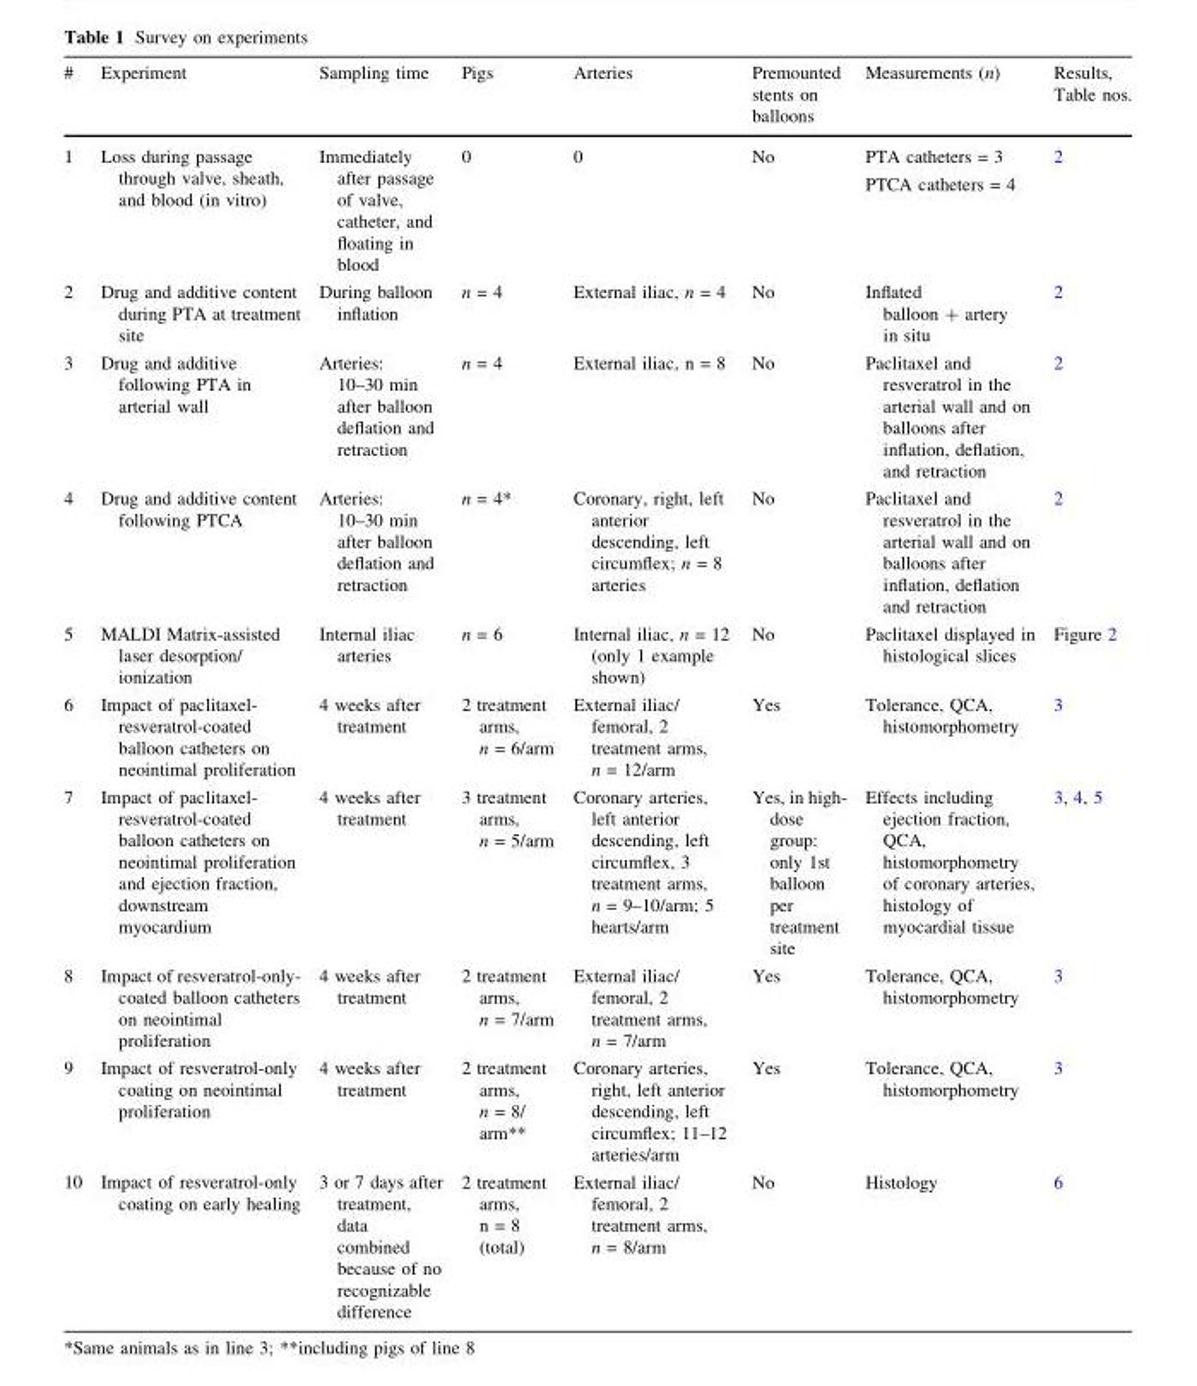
<table><thead><tr><td>#</td><td>Experiment</td><td>Sampling time</td><td>Pigs</td><td>Arteries</td><td>Premounted stents on balloons</td><td>Measurements (n)</td><td>Results, Table nos.</td></tr></thead><tbody><tr><td>1</td><td>Loss during passage through valve, sheath, and blood (in vitro)</td><td>Immediately after passage of valve, catheter, and floating in blood</td><td>0</td><td>0</td><td>No</td><td>PTA catheters = 3 PTCA catheters = 4</td><td>2</td></tr><tr><td>2</td><td>Drug and additive content during PTA at treatment site</td><td>During balloon inflation</td><td>n = 4</td><td>External iliac, n = 4</td><td>No</td><td>Inflated balloon + artery in situ</td><td>2</td></tr><tr><td>3</td><td>Drug and additive following PTA in arterial wall</td><td>Arteries: 10–30 min after balloon deflation and retraction</td><td>n = 4</td><td>External iliac, n = 8</td><td>No</td><td>Paclitaxel and resveratrol in the arterial wall and on balloons after inflation, deflation, and retraction</td><td>2</td></tr><tr><td>4</td><td>Drug and additive content following PTCA</td><td>Arteries: 10–30 min after balloon deflation and retraction</td><td>n = 4*</td><td>Coronary, right, left anterior descending, left circumflex; n = 8 arteries</td><td>No</td><td>Paclitaxel and resveratrol in the arterial wall and on balloons after inflation, deflation and retraction</td><td>2</td></tr><tr><td>5</td><td>MALDI Matrix-assisted laser desorption/ ionization</td><td>Internal iliac arteries</td><td>n = 6</td><td>Internal iliac, n = 12 (only 1 example shown)</td><td>No</td><td>Paclitaxel displayed in histological slices</td><td>Figure 2</td></tr><tr><td>6</td><td>Impact of paclitaxel- resveratrol-coated balloon catheters on neointimal proliferation</td><td>4 weeks after treatment</td><td>2 treatment arms, n = 6/arm</td><td>External iliac/ femoral, 2 treatment arms, n = 12/arm</td><td>Yes</td><td>Tolerance, QCA, histomorphometry</td><td>3</td></tr><tr><td>7</td><td>Impact of paclitaxel- resveratrol-coated balloon catheters on neointimal proliferation and ejection fraction, downstream myocardium</td><td>4 weeks after treatment</td><td>3 treatment arms, n = 5/arm</td><td>Coronary arteries, left anterior descending, left circumflex, 3 treatment arms, n = 9–10/arm; 5 hearts/arm</td><td>Yes, in high- dose group: only 1st balloon per treatment site</td><td>Effects including ejection fraction, QCA, histomorphometry of coronary arteries, histology of myocardial tissue</td><td>3, 4, 5</td></tr><tr><td>8</td><td>Impact of resveratrol-only- coated balloon catheters on neointimal proliferation</td><td>4 weeks after treatment</td><td>2 treatment arms, n = 7/arm</td><td>External iliac/ femoral, 2 treatment arms, n = 7/arm</td><td>Yes</td><td>Tolerance, QCA, histomorphometry</td><td>3</td></tr><tr><td>9</td><td>Impact of resveratrol-only coating on neointimal proliferation</td><td>4 weeks after treatment</td><td>2 treatment arms, n = 8/ arm**</td><td>Coronary arteries, right, left anterior descending, left circumflex; 11–12 arteries/arm</td><td>Yes</td><td>Tolerance, QCA, histomorphometry</td><td>3</td></tr><tr><td>10</td><td>Impact of resveratrol-only coating on early healing</td><td>3 or 7 days after treatment, data combined because of no recognizable difference</td><td>2 treatment arms, n = 8 (total)</td><td>External iliac/ femoral, 2 treatment arms, n = 8/arm</td><td>No</td><td>Histology</td><td>6</td></tr></tbody></table>